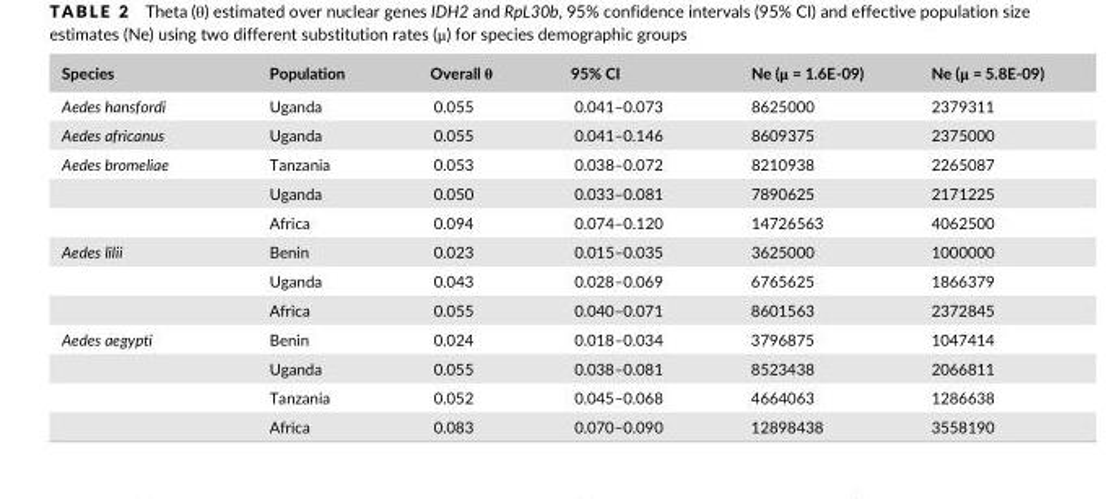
<table><thead><tr><td>Species</td><td>Population</td><td>Overall θ</td><td>95% CI</td><td>Ne (μ = 1.6E- 09)</td><td>Ne (μ = 5.8E- 09)</td></tr></thead><tbody><tr><td>Aedes hansfordi</td><td>Uganda</td><td>0.055</td><td>0.041–0.073</td><td>8625000</td><td>2379311</td></tr><tr><td>Aedes africanus</td><td>Uganda</td><td>0.055</td><td>0.041–0.146</td><td>8609375</td><td>2375000</td></tr><tr><td rowspan="3">Aedes bromeliae</td><td>Tanzania</td><td>0.053</td><td>0.038–0.072</td><td>8210938</td><td>2265087</td></tr><tr><td>Uganda</td><td>0.050</td><td>0.033–0.081</td><td>7890625</td><td>2171225</td></tr><tr><td>Africa</td><td>0.094</td><td>0.074–0.120</td><td>14726563</td><td>4062500</td></tr><tr><td rowspan="3">Aedes lilii</td><td>Benin</td><td>0.023</td><td>0.015–0.035</td><td>3625000</td><td>1000000</td></tr><tr><td>Uganda</td><td>0.043</td><td>0.028–0.069</td><td>6765625</td><td>1866379</td></tr><tr><td>Africa</td><td>0.055</td><td>0.040–0.071</td><td>8601563</td><td>2372845</td></tr><tr><td rowspan="4">Aedes aegypti</td><td>Benin</td><td>0.024</td><td>0.018–0.034</td><td>3796875</td><td>1047414</td></tr><tr><td>Uganda</td><td>0.055</td><td>0.038–0.081</td><td>8523438</td><td>2066811</td></tr><tr><td>Tanzania</td><td>0.052</td><td>0.045–0.068</td><td>4664063</td><td>1286638</td></tr><tr><td>Africa</td><td>0.083</td><td>0.070–0.090</td><td>12898438</td><td>3558190</td></tr></tbody></table>